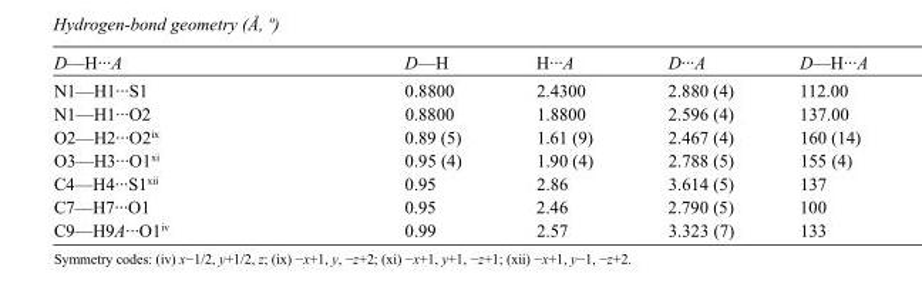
<table><tbody><tr><td>D—H···A</td><td>D—H</td><td>H···A</td><td>D···A</td><td>D—H···A</td></tr><tr><td>N1—H1···S1</td><td>0.8800</td><td>2.4300</td><td>2.880 (4)</td><td>112.00</td></tr><tr><td>N1—H1···O2</td><td>0.8800</td><td>1.8800</td><td>2.596 (4)</td><td>137.00</td></tr><tr><td>O2—H2···O2<sup>ix</sup></td><td>0.89 (5)</td><td>1.61 (9)</td><td>2.467 (4)</td><td>160 (14)</td></tr><tr><td>O3—H3···O1<sup>xi</sup></td><td>0.95 (4)</td><td>1.90 (4)</td><td>2.788 (5)</td><td>155 (4)</td></tr><tr><td>C4—H4···S1<sup>xii</sup></td><td>0.95</td><td>2.86</td><td>3.614 (5)</td><td>137</td></tr><tr><td>C7—H7···O1</td><td>0.95</td><td>2.46</td><td>2.790 (5)</td><td>100</td></tr><tr><td>C9—H9A···O1<sup>iv</sup></td><td>0.99</td><td>2.57</td><td>3.323 (7)</td><td>133</td></tr></tbody></table>